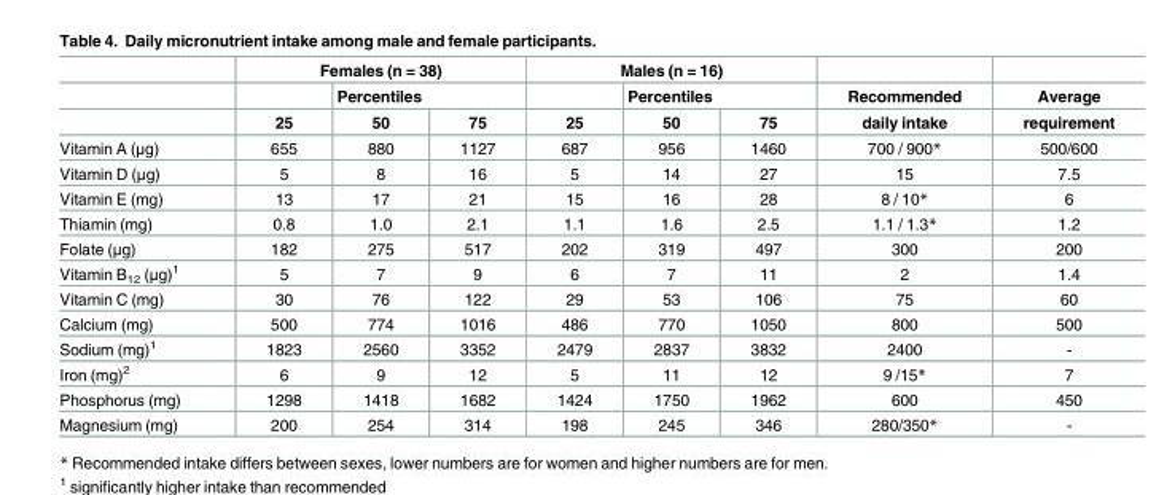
<table><thead><tr><td rowspan="3"></td><td colspan="3">Females (n = 38)</td><td colspan="3">Males (n = 16)</td><td rowspan="3">Recommended daily intake</td><td rowspan="3">Average requirement</td></tr><tr><td rowspan="2">25</td><td colspan="2">Percentiles</td><td rowspan="2">25</td><td colspan="2">Percentiles</td></tr><tr><td>50</td><td>75</td><td>50</td><td>75</td></tr></thead><tbody><tr><td>Vitamin A (μg)</td><td>655</td><td>880</td><td>1127</td><td>687</td><td>956</td><td>1460</td><td>700 / 900*</td><td>500/600</td></tr><tr><td>Vitamin D (μg)</td><td>5</td><td>8</td><td>16</td><td>5</td><td>14</td><td>27</td><td>15</td><td>7.5</td></tr><tr><td>Vitamin E (mg)</td><td>13</td><td>17</td><td>21</td><td>15</td><td>16</td><td>28</td><td>8 / 10*</td><td>6</td></tr><tr><td>Thiamin (mg)</td><td>0.8</td><td>1.0</td><td>2.1</td><td>1.1</td><td>1.6</td><td>2.5</td><td>1.1 / 1.3*</td><td>1.2</td></tr><tr><td>Folate (μg)</td><td>182</td><td>275</td><td>517</td><td>202</td><td>319</td><td>497</td><td>300</td><td>200</td></tr><tr><td>Vitamin B<sub>12</sub> (μg)<sup>1</sup></td><td>5</td><td>7</td><td>9</td><td>6</td><td>7</td><td>11</td><td>2</td><td>1.4</td></tr><tr><td>Vitamin C (mg)</td><td>30</td><td>76</td><td>122</td><td>29</td><td>53</td><td>106</td><td>75</td><td>60</td></tr><tr><td>Calcium (mg)</td><td>500</td><td>774</td><td>1016</td><td>486</td><td>770</td><td>1050</td><td>800</td><td>500</td></tr><tr><td>Sodium (mg)<sup>1</sup></td><td>1823</td><td>2560</td><td>3352</td><td>2479</td><td>2837</td><td>3832</td><td>2400</td><td>-</td></tr><tr><td>Iron (mg)<sup>2</sup></td><td>6</td><td>9</td><td>12</td><td>5</td><td>11</td><td>12</td><td>9 /15*</td><td>7</td></tr><tr><td>Phosphorus (mg)</td><td>1298</td><td>1418</td><td>1682</td><td>1424</td><td>1750</td><td>1962</td><td>600</td><td>450</td></tr><tr><td>Magnesium (mg)</td><td>200</td><td>254</td><td>314</td><td>198</td><td>245</td><td>346</td><td>280/350*</td><td>-</td></tr></tbody></table>